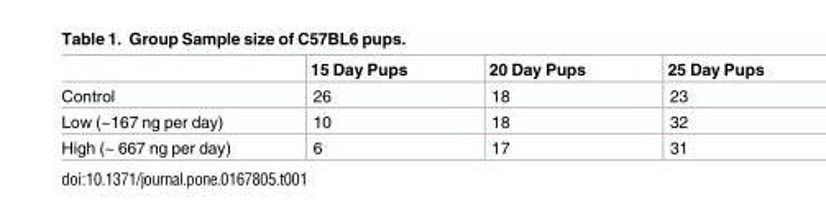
<table><thead><tr><td></td><td>15 Day Pups</td><td>20 Day Pups</td><td>25 Day Pups</td></tr></thead><tbody><tr><td>Control</td><td>26</td><td>18</td><td>23</td></tr><tr><td>Low (~167 ng per day)</td><td>10</td><td>18</td><td>32</td></tr><tr><td>High (~ 667 ng per day)</td><td>6</td><td>17</td><td>31</td></tr></tbody></table>